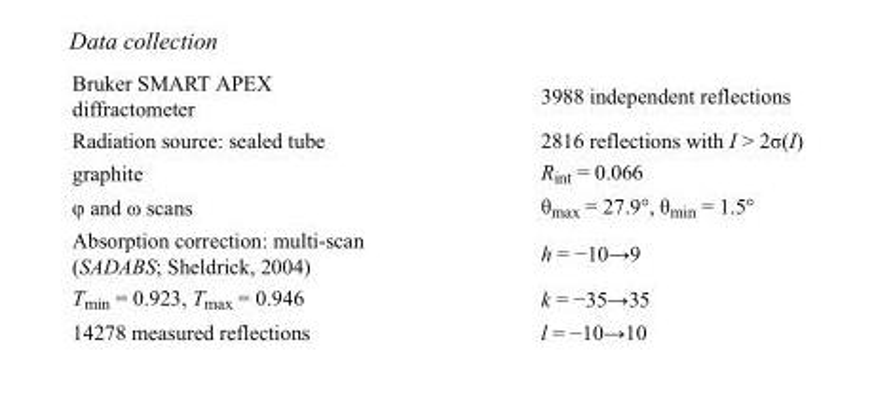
<table><tbody><tr><td>Bruker SMART APEX diffractometer</td><td>3988 independent reflections</td></tr><tr><td>Radiation source: sealed tube</td><td>2816 reflections with I &gt; 2σ(I)</td></tr><tr><td>graphite</td><td>R<sub>int</sub> = 0.066</td></tr><tr><td>φ and ω scans</td><td>θ<sub>max</sub> = 27.9°, θ<sub>min</sub> = 1.5°</td></tr><tr><td>Absorption correction: multi-scan (SADABS; Sheldrick, 2004)</td><td>h = −10→9</td></tr><tr><td>T<sub>min</sub> = 0.923, T<sub>max</sub> = 0.946</td><td>k = −35→35</td></tr><tr><td>14278 measured reflections</td><td>l = −10→10</td></tr></tbody></table>